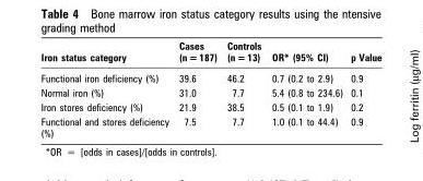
<table><thead><tr><td>Iron status category</td><td>Cases (n = 187)</td><td>Controls (n = 13)</td><td>OR* (95% CI)</td><td>p Value</td></tr></thead><tbody><tr><td>Functional iron deficiency (%)</td><td>39.6</td><td>46.2</td><td>0.7 (0.2 to 2.9)</td><td>0.9</td></tr><tr><td>Normal iron (%)</td><td>31.0</td><td>7.7</td><td>5.4 (0.8 to 234.6)</td><td>0.1</td></tr><tr><td>Iron stores deficiency (%)</td><td>21.9</td><td>38.5</td><td>0.5 (0.1 to 1.9)</td><td>0.2</td></tr><tr><td>Functional and stores deficiency (%)</td><td>7.5</td><td>7.7</td><td>1.0 (0.1 to 44.4)</td><td>0.9</td></tr></tbody></table>